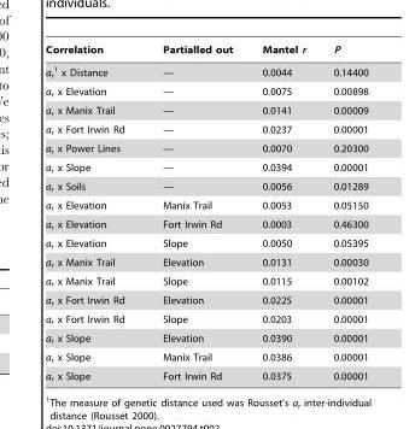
<table><thead><tr><td>Correlation</td><td>Partialled out</td><td>Mantel r</td><td>P</td></tr></thead><tbody><tr><td>a<sub>r</sub> 1 x Distance</td><td>—</td><td>0.0044</td><td>0.14400</td></tr><tr><td>a<sub>r</sub> x Elevation</td><td>—</td><td>0.0075</td><td>0.00898</td></tr><tr><td>a<sub>r</sub> x Manix Trail</td><td>—</td><td>0.0141</td><td>0.00009</td></tr><tr><td>a<sub>r</sub> x Fort Irwin Rd</td><td>—</td><td>0.0237</td><td>0.00001</td></tr><tr><td>a<sub>r</sub> x Power Lines</td><td>—</td><td>0.0070</td><td>0.20300</td></tr><tr><td>a<sub>r</sub> x Slope</td><td>—</td><td>0.0394</td><td>0.00001</td></tr><tr><td>a<sub>r</sub> x Soils</td><td>—</td><td>0.0056</td><td>0.01289</td></tr><tr><td>a<sub>r</sub> x Elevation</td><td>Manix Trail</td><td>0.0053</td><td>0.05150</td></tr><tr><td>a<sub>r</sub> x Elevation</td><td>Fort Irwin Rd</td><td>0.0003</td><td>0.46300</td></tr><tr><td>a<sub>r</sub> x Elevation</td><td>Slope</td><td>0.0050</td><td>0.05395</td></tr><tr><td>a<sub>r</sub> x Manix Trail</td><td>Elevation</td><td>0.0131</td><td>0.00030</td></tr><tr><td>a<sub>r</sub> x Manix Trail</td><td>Slope</td><td>0.0115</td><td>0.00102</td></tr><tr><td>a<sub>r</sub> x Fort Irwin Rd</td><td>Elevation</td><td>0.0225</td><td>0.00001</td></tr><tr><td>a<sub>r</sub> x Fort Irwin Rd</td><td>Slope</td><td>0.0203</td><td>0.00001</td></tr><tr><td>a<sub>r</sub> x Slope</td><td>Elevation</td><td>0.0390</td><td>0.00001</td></tr><tr><td>a<sub>r</sub> x Slope</td><td>Manix Trail</td><td>0.0386</td><td>0.00001</td></tr><tr><td>a<sub>r</sub> x Slope</td><td>Fort Irwin Rd</td><td>0.0375</td><td>0.00001</td></tr></tbody></table>